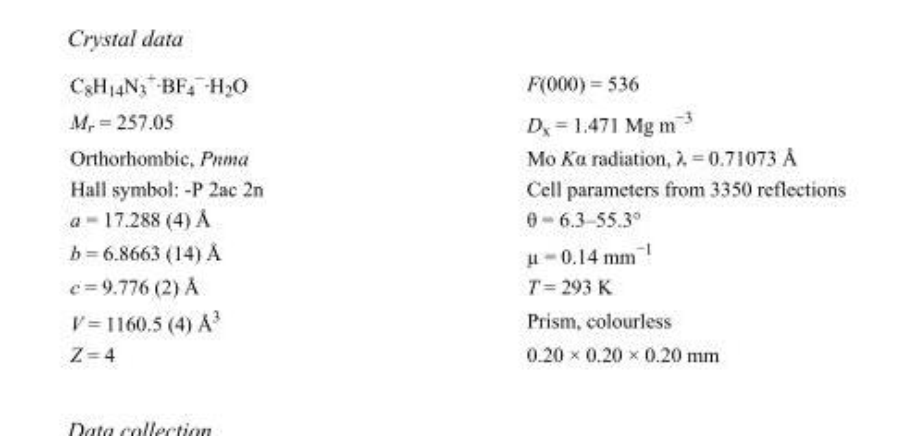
<table><tbody><tr><td>C<sub>8</sub>H<sub>14</sub>N<sub>3</sub> <sup>+</sup>·BF<sub>4</sub> <sup>−</sup>·H<sub>2</sub>O</td><td>F(000) = 536</td></tr><tr><td>M<sub>r</sub> = 257.05</td><td>D<sub>x</sub> = 1.471 Mg m<sup>−3</sup></td></tr><tr><td>Orthorhombic, Pnma</td><td>Mo Kα radiation, λ = 0.71073 Å</td></tr><tr><td>Hall symbol: -P 2ac 2n</td><td>Cell parameters from 3350 reflections</td></tr><tr><td>a = 17.288 (4) Å</td><td>θ = 6.3–55.3°</td></tr><tr><td>b = 6.8663 (14) Å</td><td>µ = 0.14 mm<sup>−1</sup></td></tr><tr><td>c = 9.776 (2) Å</td><td>T = 293 K</td></tr><tr><td>V = 1160.5 (4) Å<sup>3</sup></td><td>Prism, colourless</td></tr><tr><td>Z = 4</td><td>0.20 × 0.20 × 0.20 mm</td></tr></tbody></table>